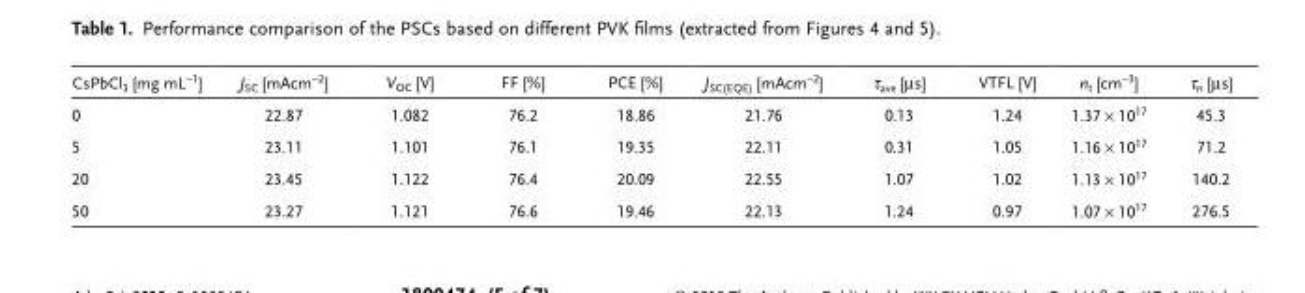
<table><thead><tr><td>CsPbCl<sub>3</sub> [mg mL<sup>−1</sup>]</td><td>J<sub>SC</sub> [mAcm<sup>−2</sup>]</td><td>V<sub>OC</sub> [V]</td><td>FF [%]</td><td>PCE [%]</td><td>J<sub>SC(EQE)</sub> [mAcm<sup>−2</sup>]</td><td>τ<sub>ave</sub> [µs]</td><td>VTFL [V]</td><td>n<sub>t</sub> [cm<sup>−3</sup>]</td><td>τ<sub>n</sub> [µs]</td></tr></thead><tbody><tr><td>0</td><td>22.87</td><td>1.082</td><td>76.2</td><td>18.86</td><td>21.76</td><td>0.13</td><td>1.24</td><td>1.37 × 10<sup>17</sup></td><td>45.3</td></tr><tr><td>5</td><td>23.11</td><td>1.101</td><td>76.1</td><td>19.35</td><td>22.11</td><td>0.31</td><td>1.05</td><td>1.16 × 10<sup>17</sup></td><td>71.2</td></tr><tr><td>20</td><td>23.45</td><td>1.122</td><td>76.4</td><td>20.09</td><td>22.55</td><td>1.07</td><td>1.02</td><td>1.13 × 10<sup>17</sup></td><td>140.2</td></tr><tr><td>50</td><td>23.27</td><td>1.121</td><td>76.6</td><td>19.46</td><td>22.13</td><td>1.24</td><td>0.97</td><td>1.07 × 10<sup>17</sup></td><td>276.5</td></tr></tbody></table>